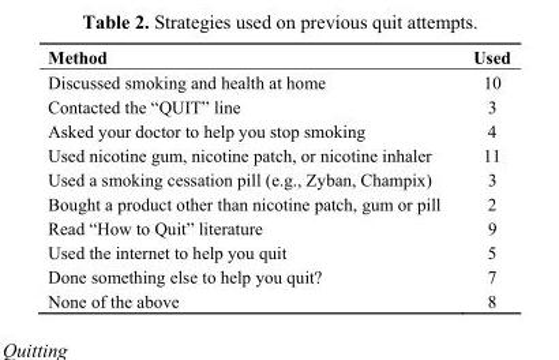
<table><thead><tr><td>Method</td><td>Used</td></tr></thead><tbody><tr><td>Discussed smoking and health at home</td><td>10</td></tr><tr><td>Contacted the “QUIT” line</td><td>3</td></tr><tr><td>Asked your doctor to help you stop smoking</td><td>4</td></tr><tr><td>Used nicotine gum, nicotine patch, or nicotine inhaler</td><td>11</td></tr><tr><td>Used a smoking cessation pill (e.g., Zyban, Champix)</td><td>3</td></tr><tr><td>Bought a product other than nicotine patch, gum or pill</td><td>2</td></tr><tr><td>Read “How to Quit” literature</td><td>9</td></tr><tr><td>Used the internet to help you quit</td><td>5</td></tr><tr><td>Done something else to help you quit?</td><td>7</td></tr><tr><td>None of the above</td><td>8</td></tr></tbody></table>